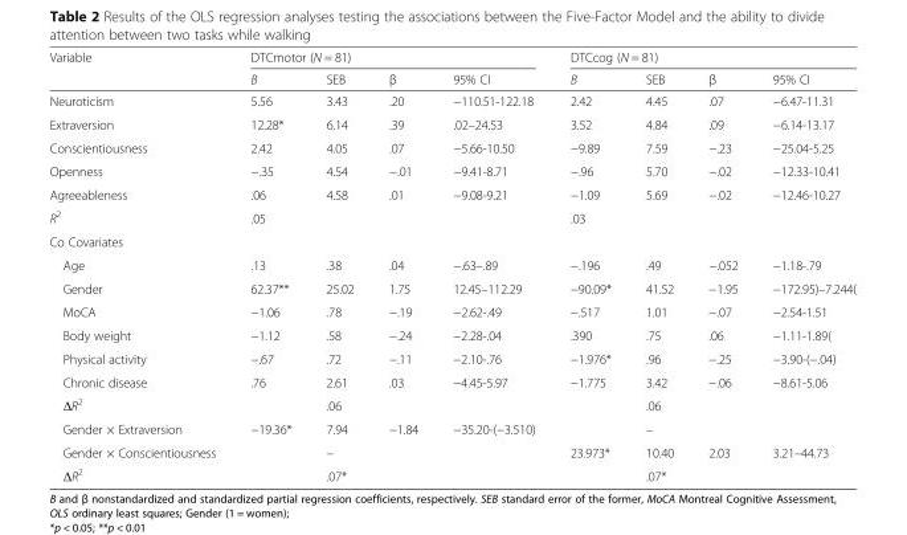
<table><thead><tr><td rowspan="2">Variable</td><td colspan="4">DTCmotor (N = 81)</td><td colspan="4">DTCcog (N = 81)</td></tr><tr><td>B</td><td>SEB</td><td>β</td><td>95% CI</td><td>B</td><td>SEB</td><td>β</td><td>95% CI</td></tr></thead><tbody><tr><td>Neuroticism</td><td>5.56</td><td>3.43</td><td>.20</td><td>−110.51-122.18</td><td>2.42</td><td>4.45</td><td>.07</td><td>−6.47-11.31</td></tr><tr><td>Extraversion</td><td>12.28*</td><td>6.14</td><td>.39</td><td>.02–24.53</td><td>3.52</td><td>4.84</td><td>.09</td><td>−6.14-13.17</td></tr><tr><td>Conscientiousness</td><td>2.42</td><td>4.05</td><td>.07</td><td>−5.66-10.50</td><td>−9.89</td><td>7.59</td><td>−.23</td><td>−25.04-5.25</td></tr><tr><td>Openness</td><td>−.35</td><td>4.54</td><td>−.01</td><td>−9.41-8.71</td><td>−.96</td><td>5.70</td><td>−.02</td><td>−12.33-10.41</td></tr><tr><td>Agreeableness</td><td>.06</td><td>4.58</td><td>.01</td><td>−9.08-9.21</td><td>−1.09</td><td>5.69</td><td>−.02</td><td>−12.46-10.27</td></tr><tr><td>R<sup>2</sup></td><td colspan="3">.05</td><td></td><td colspan="3">.03</td><td></td></tr><tr><td colspan="9">Co Covariates</td></tr><tr><td>Age</td><td>.13</td><td>.38</td><td>.04</td><td>−.63–.89</td><td>−.196</td><td>.49</td><td>−.052</td><td>−1.18-.79</td></tr><tr><td>Gender</td><td>62.37**</td><td>25.02</td><td>1.75</td><td>12.45–112.29</td><td>−90.09*</td><td>41.52</td><td>−1.95</td><td>−172.95)–7.244(</td></tr><tr><td>MoCA</td><td>−1.06</td><td>.78</td><td>−.19</td><td>−2.62-.49</td><td>−.517</td><td>1.01</td><td>−.07</td><td>−2.54-1.51</td></tr><tr><td>Body weight</td><td>−1.12</td><td>.58</td><td>−.24</td><td>−2.28-.04</td><td>.390</td><td>.75</td><td>.06</td><td>−1.11-1.89(</td></tr><tr><td>Physical activity</td><td>−.67</td><td>.72</td><td>−.11</td><td>−2.10-.76</td><td>−1.976*</td><td>.96</td><td>−.25</td><td>−3.90-(−.04)</td></tr><tr><td>Chronic disease</td><td>.76</td><td>2.61</td><td>.03</td><td>−4.45-5.97</td><td>−1.775</td><td>3.42</td><td>−.06</td><td>−8.61-5.06</td></tr><tr><td>ΔR<sup>2</sup></td><td></td><td>.06</td><td></td><td></td><td></td><td>.06</td><td></td><td></td></tr><tr><td>Gender × Extraversion</td><td>−19.36*</td><td>7.94</td><td>−1.84</td><td>−35.20-(−3.510)</td><td></td><td>–</td><td></td><td></td></tr><tr><td>Gender × Conscientiousness</td><td></td><td>–</td><td></td><td></td><td>23.973*</td><td>10.40</td><td>2.03</td><td>3.21–44.73</td></tr><tr><td>ΔR<sup>2</sup></td><td></td><td>.07*</td><td></td><td></td><td></td><td>.07*</td><td></td><td></td></tr></tbody></table>